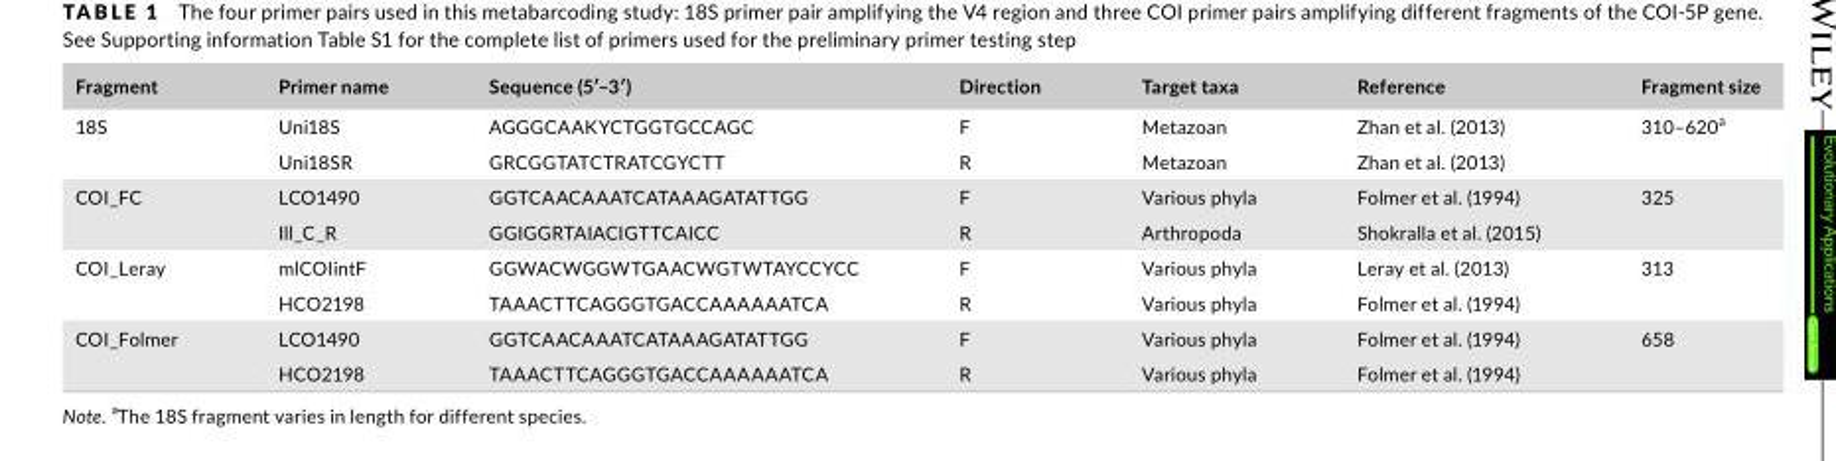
<table><thead><tr><td>Fragment</td><td>Primer name</td><td>Sequence (5′–3′)</td><td>Direction</td><td>Target taxa</td><td>Reference</td><td>Fragment size</td></tr></thead><tbody><tr><td rowspan="2">18S</td><td>Uni18S</td><td>AGGGCAAKYCTGGTGCCAGC</td><td>F</td><td>Metazoan</td><td>Zhan et al. (2013)</td><td rowspan="2">310–620<sup>a</sup></td></tr><tr><td>Uni18SR</td><td>GRCGGTATCTRATCGYCTT</td><td>R</td><td>Metazoan</td><td>Zhan et al. (2013)</td></tr><tr><td rowspan="2">COI_FC</td><td>LCO1490</td><td>GGTCAACAAATCATAAAGATATTGG</td><td>F</td><td>Various phyla</td><td>Folmer et al. (1994)</td><td rowspan="2">325</td></tr><tr><td>Ill_C_R</td><td>GGIGGRTAIACIGTTCAICC</td><td>R</td><td>Arthropoda</td><td>Shokralla et al. (2015)</td></tr><tr><td rowspan="2">COI_Leray</td><td>mlCOIintF</td><td>GGWACWGGWTGAACWGTWTAYCCYCC</td><td>F</td><td>Various phyla</td><td>Leray et al. (2013)</td><td rowspan="2">313</td></tr><tr><td>HCO2198</td><td>TAAACTTCAGGGTGACCAAAAAATCA</td><td>R</td><td>Various phyla</td><td>Folmer et al. (1994)</td></tr><tr><td rowspan="2">COI_Folmer</td><td>LCO1490</td><td>GGTCAACAAATCATAAAGATATTGG</td><td>F</td><td>Various phyla</td><td>Folmer et al. (1994)</td><td rowspan="2">658</td></tr><tr><td>HCO2198</td><td>TAAACTTCAGGGTGACCAAAAAATCA</td><td>R</td><td>Various phyla</td><td>Folmer et al. (1994)</td></tr></tbody></table>